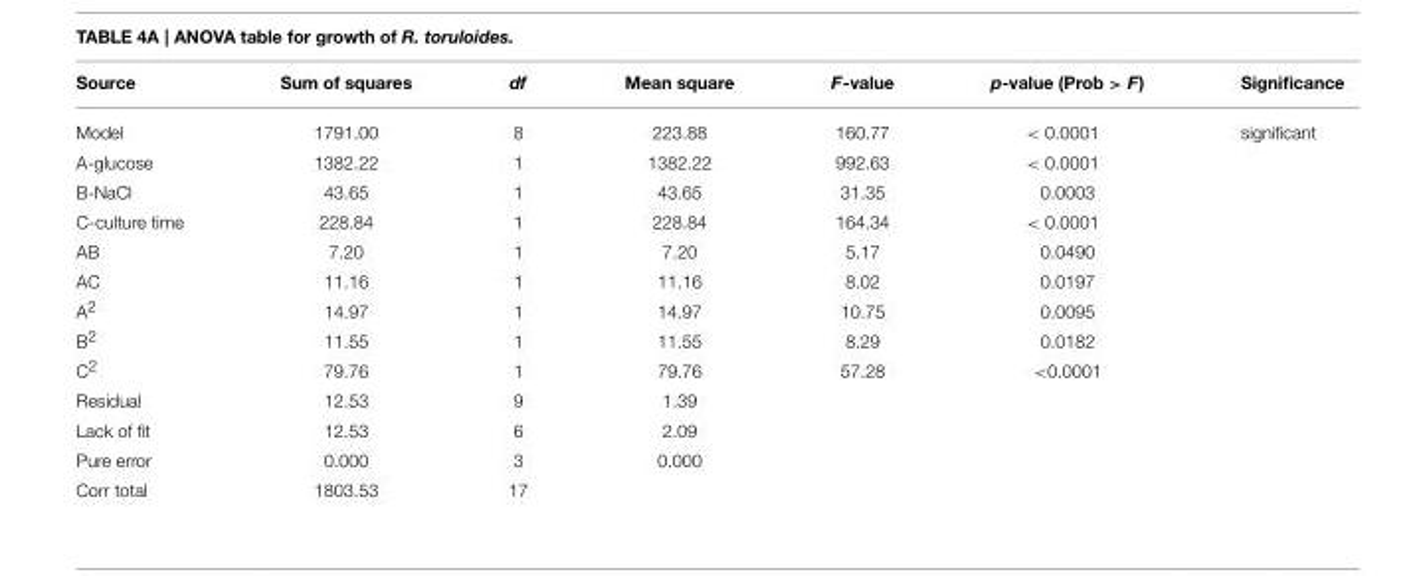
<table><thead><tr><td>Source</td><td>Sum of squares</td><td>df</td><td>Mean square</td><td>F-value</td><td>p-value (Prob &gt; F)</td><td>Significance</td></tr></thead><tbody><tr><td>Model</td><td>1791.00</td><td>8</td><td>223.88</td><td>160.77</td><td>&lt; 0.0001</td><td>significant</td></tr><tr><td>A-glucose</td><td>1382.22</td><td>1</td><td>1382.22</td><td>992.63</td><td>&lt; 0.0001</td><td></td></tr><tr><td>B-NaCl</td><td>43.65</td><td>1</td><td>43.65</td><td>31.35</td><td>0.0003</td><td></td></tr><tr><td>C-culture time</td><td>228.84</td><td>1</td><td>228.84</td><td>164.34</td><td>&lt; 0.0001</td><td></td></tr><tr><td>AB</td><td>7.20</td><td>1</td><td>7.20</td><td>5.17</td><td>0.0490</td><td></td></tr><tr><td>AC</td><td>11.16</td><td>1</td><td>11.16</td><td>8.02</td><td>0.0197</td><td></td></tr><tr><td>A<sup>2</sup></td><td>14.97</td><td>1</td><td>14.97</td><td>10.75</td><td>0.0095</td><td></td></tr><tr><td>B<sup>2</sup></td><td>11.55</td><td>1</td><td>11.55</td><td>8.29</td><td>0.0182</td><td></td></tr><tr><td>C<sup>2</sup></td><td>79.76</td><td>1</td><td>79.76</td><td>57.28</td><td>&lt;0.0001</td><td></td></tr><tr><td>Residual</td><td>12.53</td><td>9</td><td>1.39</td><td></td><td></td><td></td></tr><tr><td>Lack of fit</td><td>12.53</td><td>6</td><td>2.09</td><td></td><td></td><td></td></tr><tr><td>Pure error</td><td>0.000</td><td>3</td><td>0.000</td><td></td><td></td><td></td></tr><tr><td>Corr total</td><td>1803.53</td><td>17</td><td></td><td></td><td></td><td></td></tr></tbody></table>